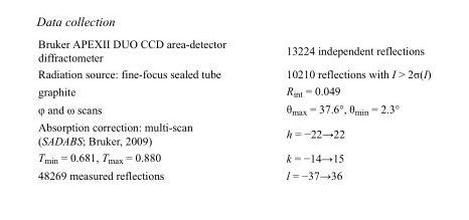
<table><tbody><tr><td>Bruker APEXII DUO CCD area-detector diffractometer</td><td>13224 independent reflections</td></tr><tr><td>Radiation source: fine-focus sealed tube</td><td>10210 reflections with I &gt; 2σ(I)</td></tr><tr><td>graphite</td><td>R<sub>int</sub> = 0.049</td></tr><tr><td>φ and ω scans</td><td>θ<sub>max</sub> = 37.6°, θ<sub>min</sub> = 2.3°</td></tr><tr><td>Absorption correction: multi-scan (SADABS; Bruker, 2009)</td><td>h = −22→22</td></tr><tr><td>T<sub>min</sub> = 0.681, T<sub>max</sub> = 0.880</td><td>k = −14→15</td></tr><tr><td>48269 measured reflections</td><td>l = −37→36</td></tr></tbody></table>